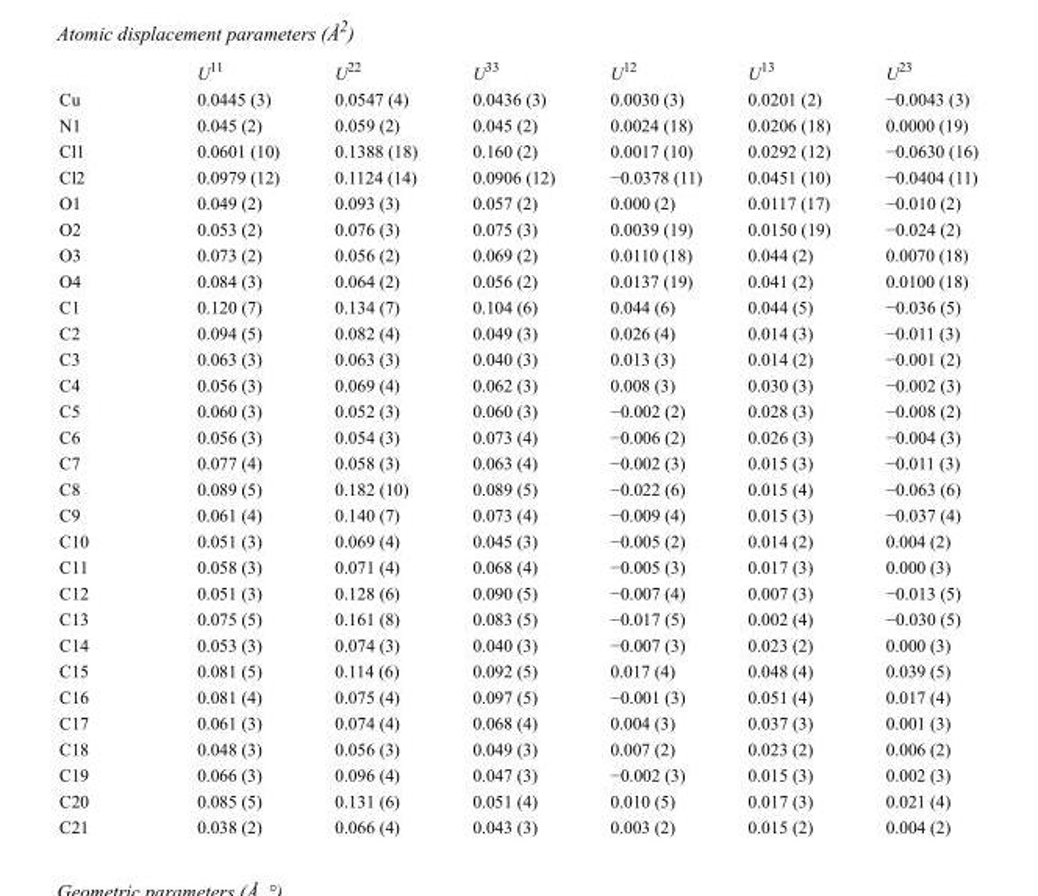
<table><thead><tr><td></td><td>U<sup>11</sup></td><td>U<sup>22</sup></td><td>U<sup>33</sup></td><td>U<sup>12</sup></td><td>U<sup>13</sup></td><td>U<sup>23</sup></td></tr></thead><tbody><tr><td>Cu</td><td>0.0445 (3)</td><td>0.0547 (4)</td><td>0.0436 (3)</td><td>0.0030 (3)</td><td>0.0201 (2)</td><td>−0.0043 (3)</td></tr><tr><td>N1</td><td>0.045 (2)</td><td>0.059 (2)</td><td>0.045 (2)</td><td>0.0024 (18)</td><td>0.0206 (18)</td><td>0.0000 (19)</td></tr><tr><td>Cl1</td><td>0.0601 (10)</td><td>0.1388 (18)</td><td>0.160 (2)</td><td>0.0017 (10)</td><td>0.0292 (12)</td><td>−0.0630 (16)</td></tr><tr><td>Cl2</td><td>0.0979 (12)</td><td>0.1124 (14)</td><td>0.0906 (12)</td><td>−0.0378 (11)</td><td>0.0451 (10)</td><td>−0.0404 (11)</td></tr><tr><td>O1</td><td>0.049 (2)</td><td>0.093 (3)</td><td>0.057 (2)</td><td>0.000 (2)</td><td>0.0117 (17)</td><td>−0.010 (2)</td></tr><tr><td>O2</td><td>0.053 (2)</td><td>0.076 (3)</td><td>0.075 (3)</td><td>0.0039 (19)</td><td>0.0150 (19)</td><td>−0.024 (2)</td></tr><tr><td>O3</td><td>0.073 (2)</td><td>0.056 (2)</td><td>0.069 (2)</td><td>0.0110 (18)</td><td>0.044 (2)</td><td>0.0070 (18)</td></tr><tr><td>O4</td><td>0.084 (3)</td><td>0.064 (2)</td><td>0.056 (2)</td><td>0.0137 (19)</td><td>0.041 (2)</td><td>0.0100 (18)</td></tr><tr><td>C1</td><td>0.120 (7)</td><td>0.134 (7)</td><td>0.104 (6)</td><td>0.044 (6)</td><td>0.044 (5)</td><td>−0.036 (5)</td></tr><tr><td>C2</td><td>0.094 (5)</td><td>0.082 (4)</td><td>0.049 (3)</td><td>0.026 (4)</td><td>0.014 (3)</td><td>−0.011 (3)</td></tr><tr><td>C3</td><td>0.063 (3)</td><td>0.063 (3)</td><td>0.040 (3)</td><td>0.013 (3)</td><td>0.014 (2)</td><td>−0.001 (2)</td></tr><tr><td>C4</td><td>0.056 (3)</td><td>0.069 (4)</td><td>0.062 (3)</td><td>0.008 (3)</td><td>0.030 (3)</td><td>−0.002 (3)</td></tr><tr><td>C5</td><td>0.060 (3)</td><td>0.052 (3)</td><td>0.060 (3)</td><td>−0.002 (2)</td><td>0.028 (3)</td><td>−0.008 (2)</td></tr><tr><td>C6</td><td>0.056 (3)</td><td>0.054 (3)</td><td>0.073 (4)</td><td>−0.006 (2)</td><td>0.026 (3)</td><td>−0.004 (3)</td></tr><tr><td>C7</td><td>0.077 (4)</td><td>0.058 (3)</td><td>0.063 (4)</td><td>−0.002 (3)</td><td>0.015 (3)</td><td>−0.011 (3)</td></tr><tr><td>C8</td><td>0.089 (5)</td><td>0.182 (10)</td><td>0.089 (5)</td><td>−0.022 (6)</td><td>0.015 (4)</td><td>−0.063 (6)</td></tr><tr><td>C9</td><td>0.061 (4)</td><td>0.140 (7)</td><td>0.073 (4)</td><td>−0.009 (4)</td><td>0.015 (3)</td><td>−0.037 (4)</td></tr><tr><td>C10</td><td>0.051 (3)</td><td>0.069 (4)</td><td>0.045 (3)</td><td>−0.005 (2)</td><td>0.014 (2)</td><td>0.004 (2)</td></tr><tr><td>C11</td><td>0.058 (3)</td><td>0.071 (4)</td><td>0.068 (4)</td><td>−0.005 (3)</td><td>0.017 (3)</td><td>0.000 (3)</td></tr><tr><td>C12</td><td>0.051 (3)</td><td>0.128 (6)</td><td>0.090 (5)</td><td>−0.007 (4)</td><td>0.007 (3)</td><td>−0.013 (5)</td></tr><tr><td>C13</td><td>0.075 (5)</td><td>0.161 (8)</td><td>0.083 (5)</td><td>−0.017 (5)</td><td>0.002 (4)</td><td>−0.030 (5)</td></tr><tr><td>C14</td><td>0.053 (3)</td><td>0.074 (3)</td><td>0.040 (3)</td><td>−0.007 (3)</td><td>0.023 (2)</td><td>0.000 (3)</td></tr><tr><td>C15</td><td>0.081 (5)</td><td>0.114 (6)</td><td>0.092 (5)</td><td>0.017 (4)</td><td>0.048 (4)</td><td>0.039 (5)</td></tr><tr><td>C16</td><td>0.081 (4)</td><td>0.075 (4)</td><td>0.097 (5)</td><td>−0.001 (3)</td><td>0.051 (4)</td><td>0.017 (4)</td></tr><tr><td>C17</td><td>0.061 (3)</td><td>0.074 (4)</td><td>0.068 (4)</td><td>0.004 (3)</td><td>0.037 (3)</td><td>0.001 (3)</td></tr><tr><td>C18</td><td>0.048 (3)</td><td>0.056 (3)</td><td>0.049 (3)</td><td>0.007 (2)</td><td>0.023 (2)</td><td>0.006 (2)</td></tr><tr><td>C19</td><td>0.066 (3)</td><td>0.096 (4)</td><td>0.047 (3)</td><td>−0.002 (3)</td><td>0.015 (3)</td><td>0.002 (3)</td></tr><tr><td>C20</td><td>0.085 (5)</td><td>0.131 (6)</td><td>0.051 (4)</td><td>0.010 (5)</td><td>0.017 (3)</td><td>0.021 (4)</td></tr><tr><td>C21</td><td>0.038 (2)</td><td>0.066 (4)</td><td>0.043 (3)</td><td>0.003 (2)</td><td>0.015 (2)</td><td>0.004 (2)</td></tr></tbody></table>